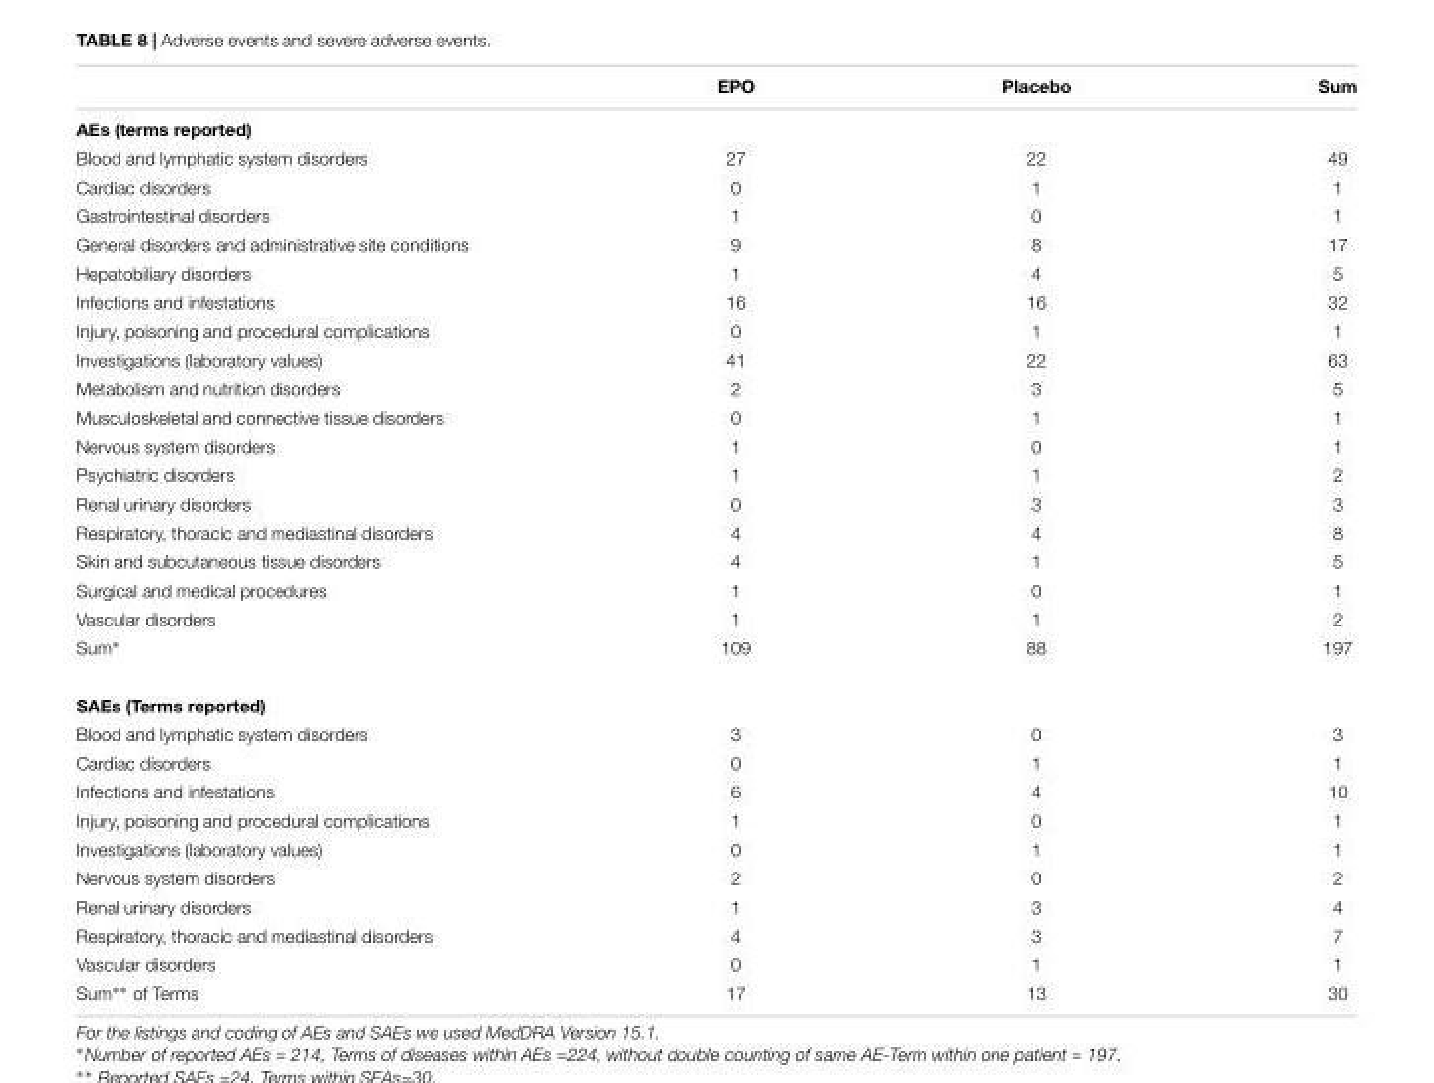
<table><thead><tr><td></td><td>EPO</td><td>Placebo</td><td>Sum</td></tr></thead><tbody><tr><td colspan="4">AEs (terms reported)</td></tr><tr><td>Blood and lymphatic system disorders</td><td>27</td><td>22</td><td>49</td></tr><tr><td>Cardiac disorders</td><td>0</td><td>1</td><td>1</td></tr><tr><td>Gastrointestinal disorders</td><td>1</td><td>0</td><td>1</td></tr><tr><td>General disorders and administrative site conditions</td><td>9</td><td>8</td><td>17</td></tr><tr><td>Hepatobiliary disorders</td><td>1</td><td>4</td><td>5</td></tr><tr><td>Infections and infestations</td><td>16</td><td>16</td><td>32</td></tr><tr><td>Injury, poisoning and procedural complications</td><td>0</td><td>1</td><td>1</td></tr><tr><td>Investigations (laboratory values)</td><td>41</td><td>22</td><td>63</td></tr><tr><td>Metabolism and nutrition disorders</td><td>2</td><td>3</td><td>5</td></tr><tr><td>Musculoskeletal and connective tissue disorders</td><td>0</td><td>1</td><td>1</td></tr><tr><td>Nervous system disorders</td><td>1</td><td>0</td><td>1</td></tr><tr><td>Psychiatric disorders</td><td>1</td><td>1</td><td>2</td></tr><tr><td>Renal urinary disorders</td><td>0</td><td>3</td><td>3</td></tr><tr><td>Respiratory, thoracic and mediastinal disorders</td><td>4</td><td>4</td><td>8</td></tr><tr><td>Skin and subcutaneous tissue disorders</td><td>4</td><td>1</td><td>5</td></tr><tr><td>Surgical and medical procedures</td><td>1</td><td>0</td><td>1</td></tr><tr><td>Vascular disorders</td><td>1</td><td>1</td><td>2</td></tr><tr><td>Sum∗</td><td>109</td><td>88</td><td>197</td></tr><tr><td colspan="4">SAEs (Terms reported)</td></tr><tr><td>Blood and lymphatic system disorders</td><td>3</td><td>0</td><td>3</td></tr><tr><td>Cardiac disorders</td><td>0</td><td>1</td><td>1</td></tr><tr><td>Infections and infestations</td><td>6</td><td>4</td><td>10</td></tr><tr><td>Injury, poisoning and procedural complications</td><td>1</td><td>0</td><td>1</td></tr><tr><td>Investigations (laboratory values)</td><td>0</td><td>1</td><td>1</td></tr><tr><td>Nervous system disorders</td><td>2</td><td>0</td><td>2</td></tr><tr><td>Renal urinary disorders</td><td>1</td><td>3</td><td>4</td></tr><tr><td>Respiratory, thoracic and mediastinal disorders</td><td>4</td><td>3</td><td>7</td></tr><tr><td>Vascular disorders</td><td>0</td><td>1</td><td>1</td></tr><tr><td>Sum∗∗ of Terms</td><td>17</td><td>13</td><td>30</td></tr></tbody></table>